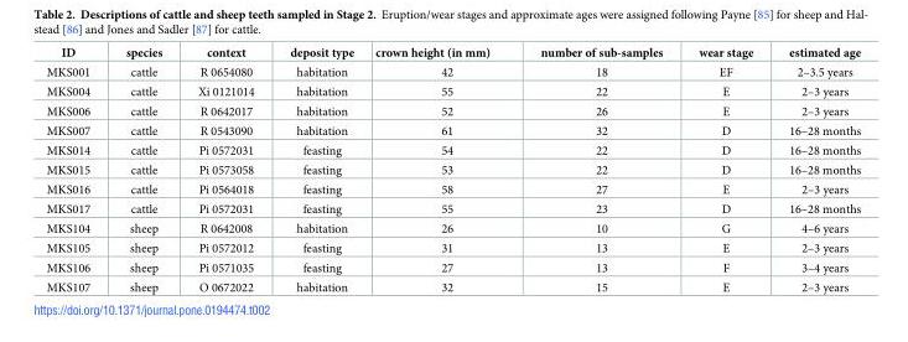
<table><thead><tr><td>ID</td><td>species</td><td>context</td><td>deposit type</td><td>crown height (in mm)</td><td>number of sub-samples</td><td>wear stage</td><td>estimated age</td></tr></thead><tbody><tr><td>MKS001</td><td>cattle</td><td>R 0654080</td><td>habitation</td><td>42</td><td>18</td><td>EF</td><td>2–3.5 years</td></tr><tr><td>MKS004</td><td>cattle</td><td>Xi 0121014</td><td>habitation</td><td>55</td><td>22</td><td>E</td><td>2–3 years</td></tr><tr><td>MKS006</td><td>cattle</td><td>R 0642017</td><td>habitation</td><td>52</td><td>26</td><td>E</td><td>2–3 years</td></tr><tr><td>MKS007</td><td>cattle</td><td>R 0543090</td><td>habitation</td><td>61</td><td>32</td><td>D</td><td>16–28 months</td></tr><tr><td>MKS014</td><td>cattle</td><td>Pi 0572031</td><td>feasting</td><td>54</td><td>22</td><td>D</td><td>16–28 months</td></tr><tr><td>MKS015</td><td>cattle</td><td>Pi 0573058</td><td>feasting</td><td>53</td><td>22</td><td>D</td><td>16–28 months</td></tr><tr><td>MKS016</td><td>cattle</td><td>Pi 0564018</td><td>feasting</td><td>58</td><td>27</td><td>E</td><td>2–3 years</td></tr><tr><td>MKS017</td><td>cattle</td><td>Pi 0572031</td><td>feasting</td><td>55</td><td>23</td><td>D</td><td>16–28 months</td></tr><tr><td>MKS104</td><td>sheep</td><td>R 0642008</td><td>habitation</td><td>26</td><td>10</td><td>G</td><td>4–6 years</td></tr><tr><td>MKS105</td><td>sheep</td><td>Pi 0572012</td><td>feasting</td><td>31</td><td>13</td><td>E</td><td>2–3 years</td></tr><tr><td>MKS106</td><td>sheep</td><td>Pi 0571035</td><td>feasting</td><td>27</td><td>13</td><td>F</td><td>3–4 years</td></tr><tr><td>MKS107</td><td>sheep</td><td>O 0672022</td><td>habitation</td><td>32</td><td>15</td><td>E</td><td>2–3 years</td></tr></tbody></table>